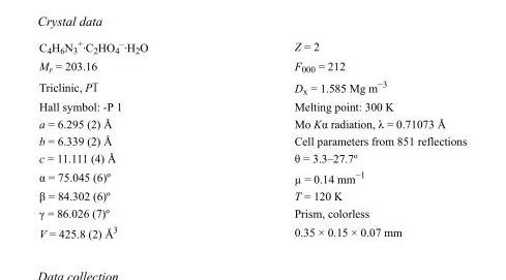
<table><tbody><tr><td>C<sub>4</sub>H<sub>6</sub>N<sub>3</sub> <sup>+</sup>·C<sub>2</sub>HO<sub>4</sub> <sup>–</sup>·H<sub>2</sub>O</td><td>Z = 2</td></tr><tr><td>M<sub>r</sub> = 203.16</td><td>F000 = 212</td></tr><tr><td>Triclinic, P1</td><td>D<sub>x</sub> = 1.585 Mg m<sup>−3</sup></td></tr><tr><td>Hall symbol: -P 1</td><td>Melting point: 300 K</td></tr><tr><td>a = 6.295 (2) Å</td><td>Mo Kα radiation, λ = 0.71073 Å</td></tr><tr><td>b = 6.339 (2) Å</td><td>Cell parameters from 851 reflections</td></tr><tr><td>c = 11.111 (4) Å</td><td>θ = 3.3–27.7º</td></tr><tr><td>α = 75.045 (6)º</td><td>µ = 0.14 mm<sup>−1</sup></td></tr><tr><td>β = 84.302 (6)º</td><td>T = 120 K</td></tr><tr><td>γ = 86.026 (7)º</td><td>Prism, colorless</td></tr><tr><td>V = 425.8 (2) Å<sup>3</sup></td><td>0.35 × 0.15 × 0.07 mm</td></tr></tbody></table>